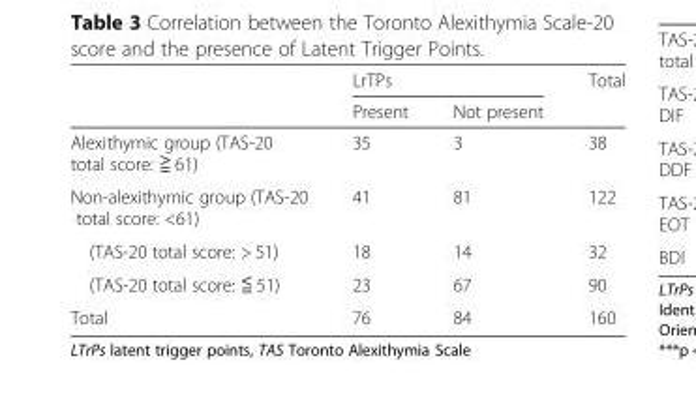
<table><thead><tr><td rowspan="2"></td><td colspan="2">LrTPs</td><td rowspan="2">Total</td></tr><tr><td>Present</td><td>Not present</td></tr></thead><tbody><tr><td>Alexithymic group (TAS-20 total score: ≧ 61)</td><td>35</td><td>3</td><td>38</td></tr><tr><td>Non-alexithymic group (TAS-20 total score: &lt;61)</td><td>41</td><td>81</td><td>122</td></tr><tr><td>(TAS-20 total score: &gt; 51)</td><td>18</td><td>14</td><td>32</td></tr><tr><td>(TAS-20 total score: ≦ 51)</td><td>23</td><td>67</td><td>90</td></tr><tr><td>Total</td><td>76</td><td>84</td><td>160</td></tr></tbody></table>